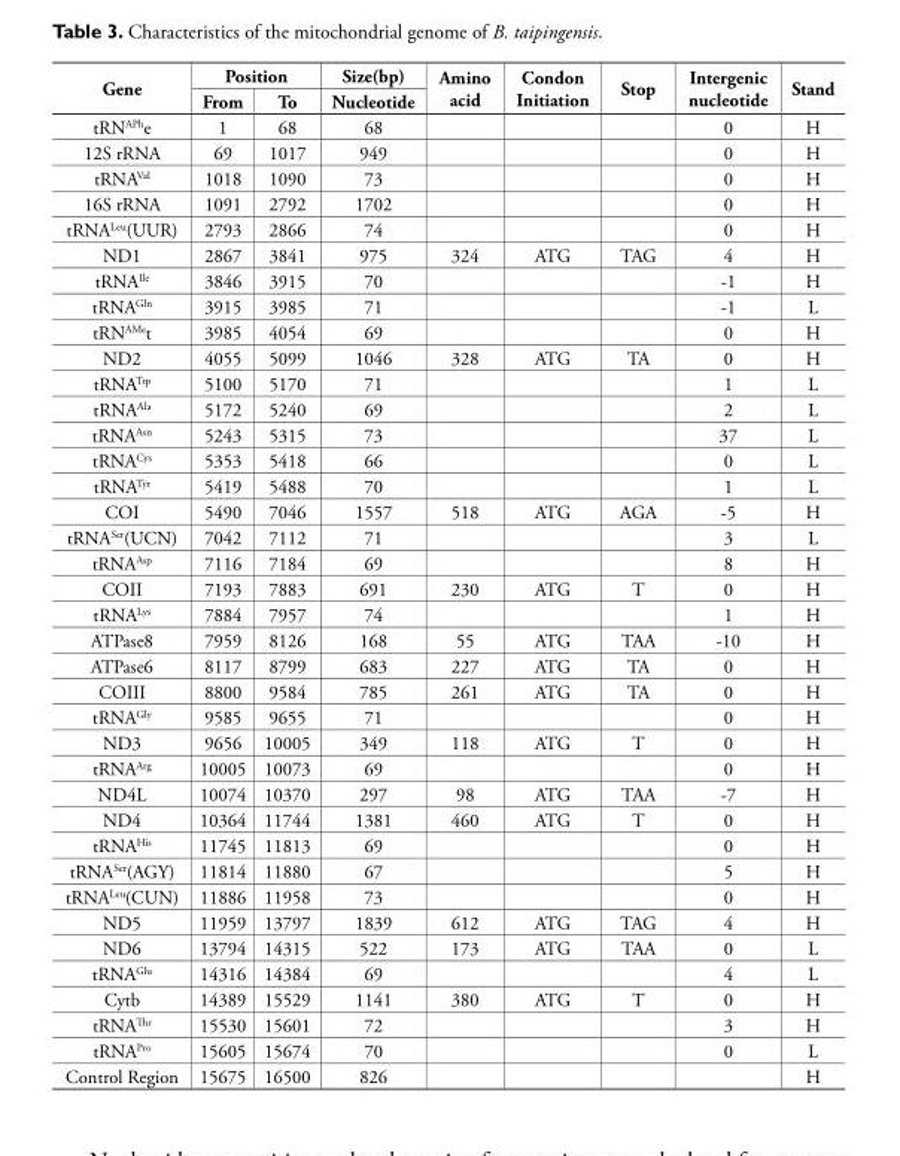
<table><thead><tr><td rowspan="2">Gene</td><td colspan="2">Position</td><td rowspan="2">Size(bp) Nucleotide</td><td rowspan="2">Amino acid</td><td rowspan="2">Condon Initiation</td><td rowspan="2">Stop</td><td rowspan="2">Intergenic nucleotide</td><td rowspan="2">Stand</td></tr><tr><td>From</td><td>To</td></tr></thead><tbody><tr><td>tRN<sup>APh</sup>e</td><td>1</td><td>68</td><td>68</td><td></td><td></td><td></td><td>0</td><td>H</td></tr><tr><td>12S rRNA</td><td>69</td><td>1017</td><td>949</td><td></td><td></td><td></td><td>0</td><td>H</td></tr><tr><td>tRNA<sup>Val</sup></td><td>1018</td><td>1090</td><td>73</td><td></td><td></td><td></td><td>0</td><td>H</td></tr><tr><td>16S rRNA</td><td>1091</td><td>2792</td><td>1702</td><td></td><td></td><td></td><td>0</td><td>H</td></tr><tr><td>tRNA<sup>Leu</sup>(UUR)</td><td>2793</td><td>2866</td><td>74</td><td></td><td></td><td></td><td>0</td><td>H</td></tr><tr><td>ND1</td><td>2867</td><td>3841</td><td>975</td><td>324</td><td>ATG</td><td>TAG</td><td>4</td><td>H</td></tr><tr><td>tRNA<sup>Ile</sup></td><td>3846</td><td>3915</td><td>70</td><td></td><td></td><td></td><td>-1</td><td>H</td></tr><tr><td>tRNA<sup>Gln</sup></td><td>3915</td><td>3985</td><td>71</td><td></td><td></td><td></td><td>-1</td><td>L</td></tr><tr><td>tRN<sup>AMe</sup>t</td><td>3985</td><td>4054</td><td>69</td><td></td><td></td><td></td><td>0</td><td>H</td></tr><tr><td>ND2</td><td>4055</td><td>5099</td><td>1046</td><td>328</td><td>ATG</td><td>TA</td><td>0</td><td>H</td></tr><tr><td>tRNA<sup>Trp</sup></td><td>5100</td><td>5170</td><td>71</td><td></td><td></td><td></td><td>1</td><td>L</td></tr><tr><td>tRNA<sup>Ala</sup></td><td>5172</td><td>5240</td><td>69</td><td></td><td></td><td></td><td>2</td><td>L</td></tr><tr><td>tRNA<sup>Asn</sup></td><td>5243</td><td>5315</td><td>73</td><td></td><td></td><td></td><td>37</td><td>L</td></tr><tr><td>tRNA<sup>Cys</sup></td><td>5353</td><td>5418</td><td>66</td><td></td><td></td><td></td><td>0</td><td>L</td></tr><tr><td>tRNA<sup>Tyr</sup></td><td>5419</td><td>5488</td><td>70</td><td></td><td></td><td></td><td>1</td><td>L</td></tr><tr><td>COI</td><td>5490</td><td>7046</td><td>1557</td><td>518</td><td>ATG</td><td>AGA</td><td>-5</td><td>H</td></tr><tr><td>tRNA<sup>Ser</sup>(UCN)</td><td>7042</td><td>7112</td><td>71</td><td></td><td></td><td></td><td>3</td><td>L</td></tr><tr><td>tRNA<sup>Asp</sup></td><td>7116</td><td>7184</td><td>69</td><td></td><td></td><td></td><td>8</td><td>H</td></tr><tr><td>COII</td><td>7193</td><td>7883</td><td>691</td><td>230</td><td>ATG</td><td>T</td><td>0</td><td>H</td></tr><tr><td>tRNA<sup>Lys</sup></td><td>7884</td><td>7957</td><td>74</td><td></td><td></td><td></td><td>1</td><td>H</td></tr><tr><td>ATPase8</td><td>7959</td><td>8126</td><td>168</td><td>55</td><td>ATG</td><td>TAA</td><td>-10</td><td>H</td></tr><tr><td>ATPase6</td><td>8117</td><td>8799</td><td>683</td><td>227</td><td>ATG</td><td>TA</td><td>0</td><td>H</td></tr><tr><td>COIII</td><td>8800</td><td>9584</td><td>785</td><td>261</td><td>ATG</td><td>TA</td><td>0</td><td>H</td></tr><tr><td>tRNA<sup>Gly</sup></td><td>9585</td><td>9655</td><td>71</td><td></td><td></td><td></td><td>0</td><td>H</td></tr><tr><td>ND3</td><td>9656</td><td>10005</td><td>349</td><td>118</td><td>ATG</td><td>T</td><td>0</td><td>H</td></tr><tr><td>tRNA<sup>Arg</sup></td><td>10005</td><td>10073</td><td>69</td><td></td><td></td><td></td><td>0</td><td>H</td></tr><tr><td>ND4L</td><td>10074</td><td>10370</td><td>297</td><td>98</td><td>ATG</td><td>TAA</td><td>-7</td><td>H</td></tr><tr><td>ND4</td><td>10364</td><td>11744</td><td>1381</td><td>460</td><td>ATG</td><td>T</td><td>0</td><td>H</td></tr><tr><td>tRNA<sup>His</sup></td><td>11745</td><td>11813</td><td>69</td><td></td><td></td><td></td><td>0</td><td>H</td></tr><tr><td>tRNA<sup>Ser</sup>(AGY)</td><td>11814</td><td>11880</td><td>67</td><td></td><td></td><td></td><td>5</td><td>H</td></tr><tr><td>tRNA<sup>Leu</sup>(CUN)</td><td>11886</td><td>11958</td><td>73</td><td></td><td></td><td></td><td>0</td><td>H</td></tr><tr><td>ND5</td><td>11959</td><td>13797</td><td>1839</td><td>612</td><td>ATG</td><td>TAG</td><td>4</td><td>H</td></tr><tr><td>ND6</td><td>13794</td><td>14315</td><td>522</td><td>173</td><td>ATG</td><td>TAA</td><td>0</td><td>L</td></tr><tr><td>tRNA<sup>Glu</sup></td><td>14316</td><td>14384</td><td>69</td><td></td><td></td><td></td><td>4</td><td>L</td></tr><tr><td>Cytb</td><td>14389</td><td>15529</td><td>1141</td><td>380</td><td>ATG</td><td>T</td><td>0</td><td>H</td></tr><tr><td>tRNA<sup>Thr</sup></td><td>15530</td><td>15601</td><td>72</td><td></td><td></td><td></td><td>3</td><td>H</td></tr><tr><td>tRNA<sup>Pro</sup></td><td>15605</td><td>15674</td><td>70</td><td></td><td></td><td></td><td>0</td><td>L</td></tr><tr><td>Control Region</td><td>15675</td><td>16500</td><td>826</td><td></td><td></td><td></td><td></td><td>H</td></tr></tbody></table>